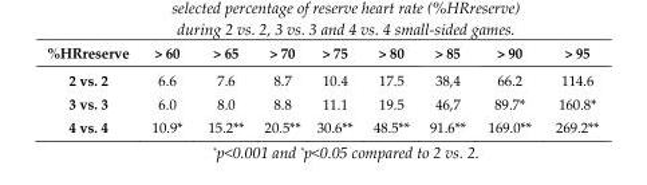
<table><thead><tr><td>%HRreserve</td><td>&gt; 60</td><td>&gt; 65</td><td>&gt; 70</td><td>&gt; 75</td><td>&gt; 80</td><td>&gt; 85</td><td>&gt; 90</td><td>&gt; 95</td></tr></thead><tbody><tr><td>2 vs. 2</td><td>6.6</td><td>7.6</td><td>8.7</td><td>10.4</td><td>17.5</td><td>38,4</td><td>66.2</td><td>114.6</td></tr><tr><td>3 vs. 3</td><td>6.0</td><td>8.0</td><td>8.8</td><td>11.1</td><td>19.5</td><td>46,7</td><td>89.7*</td><td>160.8*</td></tr><tr><td>4 vs. 4</td><td>10.9*</td><td>15.2**</td><td>20.5**</td><td>30.6**</td><td>48.5**</td><td>91.6**</td><td>169.0**</td><td>269.2**</td></tr></tbody></table>